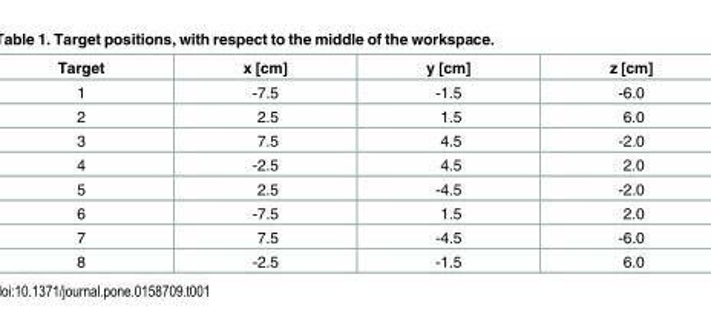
<table><thead><tr><td>Target</td><td>x [cm]</td><td>y [cm]</td><td>z [cm]</td></tr></thead><tbody><tr><td>1</td><td>-7.5</td><td>-1.5</td><td>-6.0</td></tr><tr><td>2</td><td>2.5</td><td>1.5</td><td>6.0</td></tr><tr><td>3</td><td>7.5</td><td>4.5</td><td>-2.0</td></tr><tr><td>4</td><td>-2.5</td><td>4.5</td><td>2.0</td></tr><tr><td>5</td><td>2.5</td><td>-4.5</td><td>-2.0</td></tr><tr><td>6</td><td>-7.5</td><td>1.5</td><td>2.0</td></tr><tr><td>7</td><td>7.5</td><td>-4.5</td><td>-6.0</td></tr><tr><td>8</td><td>-2.5</td><td>-1.5</td><td>6.0</td></tr></tbody></table>